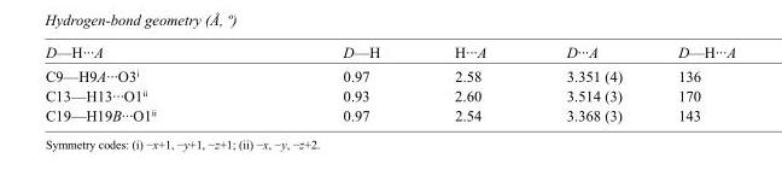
<table><tbody><tr><td>D—H···A</td><td>D—H</td><td>H···A</td><td>D···A</td><td>D—H···A</td></tr><tr><td>C9—H9A···O3<sup>i</sup></td><td>0.97</td><td>2.58</td><td>3.351 (4)</td><td>136</td></tr><tr><td>C13—H13···O1<sup>ii</sup></td><td>0.93</td><td>2.60</td><td>3.514 (3)</td><td>170</td></tr><tr><td>C19—H19B···O1<sup>ii</sup></td><td>0.97</td><td>2.54</td><td>3.368 (3)</td><td>143</td></tr></tbody></table>